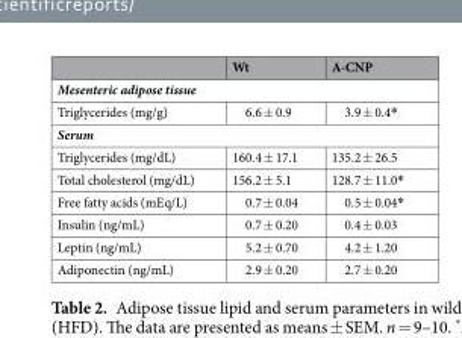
<table><thead><tr><td></td><td>Wt</td><td>A-CNP</td></tr></thead><tbody><tr><td colspan="3">Mesenteric adipose tissue</td></tr><tr><td>Triglycerides (mg/g)</td><td>6.6 ± 0.9</td><td>3.9 ± 0.4*</td></tr><tr><td colspan="3">Serum</td></tr><tr><td>Triglycerides (mg/dL)</td><td>160.4 ± 17.1</td><td>135.2 ± 26.5</td></tr><tr><td>Total cholesterol (mg/dL)</td><td>156.2 ± 5.1</td><td>128.7 ± 11.0*</td></tr><tr><td>Free fatty acids (mEq/L)</td><td>0.7 ± 0.04</td><td>0.5 ± 0.04*</td></tr><tr><td>Insulin (ng/mL)</td><td>0.7 ± 0.20</td><td>0.4 ± 0.03</td></tr><tr><td>Leptin (ng/mL)</td><td>5.2 ± 0.70</td><td>4.2 ± 1.20</td></tr><tr><td>Adiponectin (ng/mL)</td><td>2.9 ± 0.20</td><td>2.7 ± 0.20</td></tr></tbody></table>